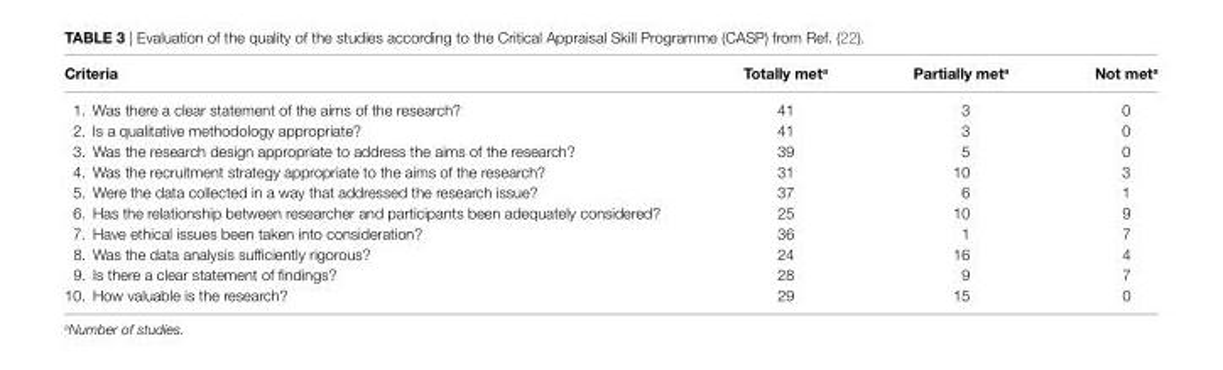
<table><thead><tr><td>Criteria</td><td>totally met<sup>a</sup></td><td>Partially met<sup>a</sup></td><td>Not met<sup>a</sup></td></tr></thead><tbody><tr><td>1. Was there a clear statement of the aims of the research?</td><td>41</td><td>3</td><td>0</td></tr><tr><td>2. Is a qualitative methodology appropriate?</td><td>41</td><td>3</td><td>0</td></tr><tr><td>3. Was the research design appropriate to address the aims of the research?</td><td>39</td><td>5</td><td>0</td></tr><tr><td>4. Was the recruitment strategy appropriate to the aims of the research?</td><td>31</td><td>10</td><td>3</td></tr><tr><td>5. Were the data collected in a way that addressed the research issue?</td><td>37</td><td>6</td><td>1</td></tr><tr><td>6. Has the relationship between researcher and participants been adequately considered?</td><td>25</td><td>10</td><td>9</td></tr><tr><td>7. Have ethical issues been taken into consideration?</td><td>36</td><td>1</td><td>7</td></tr><tr><td>8. Was the data analysis sufficiently rigorous?</td><td>24</td><td>16</td><td>4</td></tr><tr><td>9. Is there a clear statement of findings?</td><td>28</td><td>9</td><td>7</td></tr><tr><td>10. How valuable is the research?</td><td>29</td><td>15</td><td>0</td></tr></tbody></table>